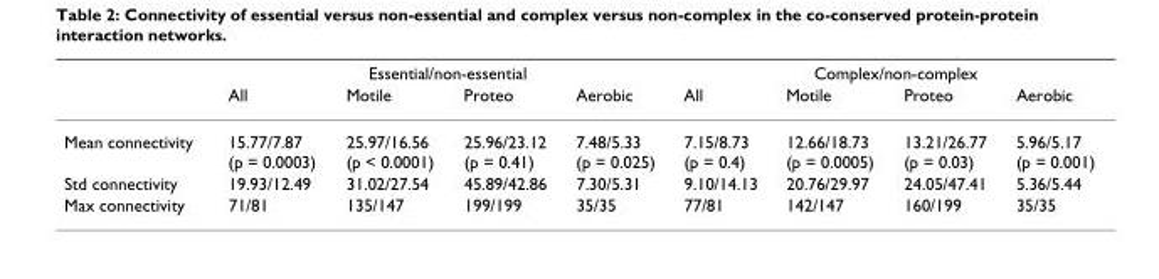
<table><thead><tr><td rowspan="2"></td><td colspan="4">Essential/non-essential</td><td colspan="4">Complex/non-complex</td></tr><tr><td>All</td><td>Motile</td><td>Proteo</td><td>Aerobic</td><td>All</td><td>Motile</td><td>Proteo</td><td>Aerobic</td></tr></thead><tbody><tr><td>Mean connectivity</td><td>15.77/7.87 (p = 0.0003)</td><td>25.97/16.56 (p &lt; 0.0001)</td><td>25.96/23.12 (p = 0.41)</td><td>7.48/5.33 (p = 0.025)</td><td>7.15/8.73 (p = 0.4)</td><td>12.66/18.73 (p = 0.0005)</td><td>13.21/26.77 (p = 0.03)</td><td>5.96/5.17 (p = 0.001)</td></tr><tr><td>Std connectivity</td><td>19.93/12.49</td><td>31.02/27.54</td><td>45.89/42.86</td><td>7.30/5.31</td><td>9.10/14.13</td><td>20.76/29.97</td><td>24.05/47.41</td><td>5.36/5.44</td></tr><tr><td>Max connectivity</td><td>71/81</td><td>135/147</td><td>199/199</td><td>35/35</td><td>77/81</td><td>142/147</td><td>160/199</td><td>35/35</td></tr></tbody></table>